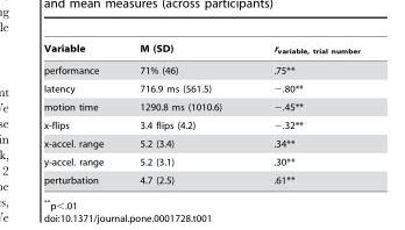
<table><thead><tr><td>Variable</td><td>M (SD)</td><td>r<sub>variable, trial number</sub></td></tr></thead><tbody><tr><td>performance</td><td>71% (46)</td><td>.75**</td></tr><tr><td>latency</td><td>716.9 ms (561.5)</td><td>−.80**</td></tr><tr><td>motion time</td><td>1290.8 ms (1010.6)</td><td>−.45**</td></tr><tr><td>x-flips</td><td>3.4 flips (4.2)</td><td>−.32**</td></tr><tr><td>x-accel. range</td><td>5.2 (3.4)</td><td>.34**</td></tr><tr><td>y-accel. range</td><td>5.2 (3.1)</td><td>.30**</td></tr><tr><td>perturbation</td><td>4.7 (2.5)</td><td>.61**</td></tr></tbody></table>